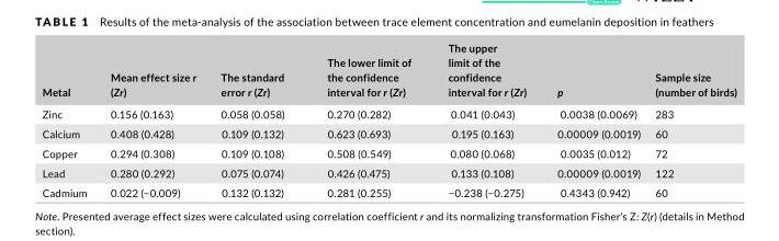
<table><thead><tr><td>Metal</td><td>Mean effect size r (Zr)</td><td>The standard error r (Zr)</td><td>The lower limit of the confidence interval for r (Zr)</td><td>The upper limit of the confidence interval for r (Zr)</td><td>p</td><td>Sample size (number of birds)</td></tr></thead><tbody><tr><td>Zinc</td><td>0.156 (0.163)</td><td>0.058 (0.058)</td><td>0.270 (0.282)</td><td>0.041 (0.043)</td><td>0.0038 (0.0069)</td><td>283</td></tr><tr><td>Calcium</td><td>0.408 (0.428)</td><td>0.109 (0.132)</td><td>0.623 (0.693)</td><td>0.195 (0.163)</td><td>0.00009 (0.0019)</td><td>60</td></tr><tr><td>Copper</td><td>0.294 (0.308)</td><td>0.109 (0.108)</td><td>0.508 (0.549)</td><td>0.080 (0.068)</td><td>0.0035 (0.012)</td><td>72</td></tr><tr><td>Lead</td><td>0.280 (0.292)</td><td>0.075 (0.074)</td><td>0.426 (0.475)</td><td>0.133 (0.108)</td><td>0.00009 (0.0019)</td><td>122</td></tr><tr><td>Cadmium</td><td>0.022 (−0.009)</td><td>0.132 (0.132)</td><td>0.281 (0.255)</td><td>−0.238 (−0.275)</td><td>0.4343 (0.942)</td><td>60</td></tr></tbody></table>